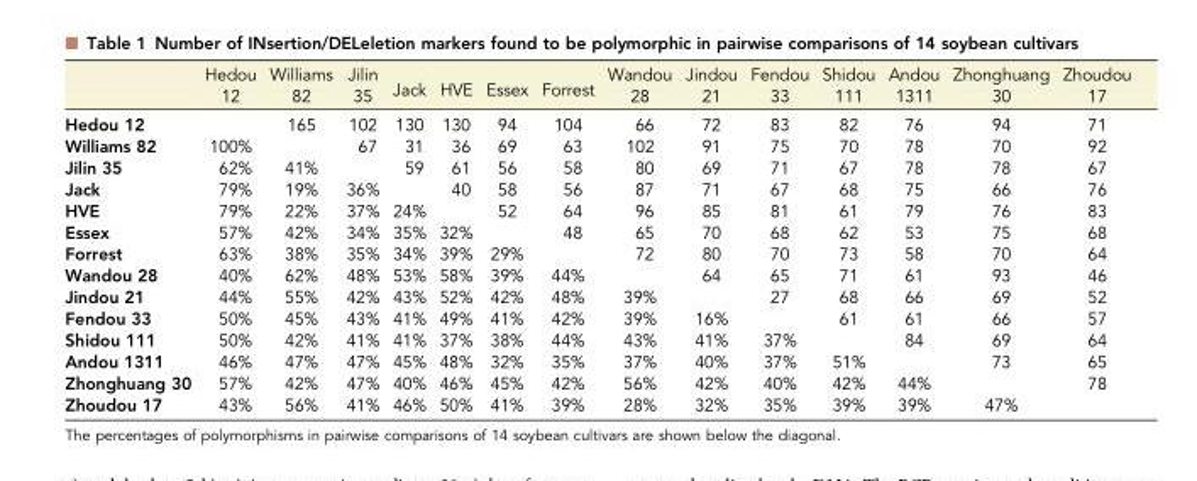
<table><thead><tr><td></td><td>Hedou 12</td><td>Williams 82</td><td>Jilin 35</td><td>Jack</td><td>HVE</td><td>Essex</td><td>Forrest</td><td>Wandou 28</td><td>Jindou 21</td><td>Fendou 33</td><td>Shidou 111</td><td>Andou 1311</td><td>Zhonghuang 30</td><td>Zhoudou 17</td></tr></thead><tbody><tr><td>Hedou 12</td><td></td><td>165</td><td>102</td><td>130</td><td>130</td><td>94</td><td>104</td><td>66</td><td>72</td><td>83</td><td>82</td><td>76</td><td>94</td><td>71</td></tr><tr><td>Williams 82</td><td>100%</td><td></td><td>67</td><td>31</td><td>36</td><td>69</td><td>63</td><td>102</td><td>91</td><td>75</td><td>70</td><td>78</td><td>70</td><td>92</td></tr><tr><td>Jilin 35</td><td>62%</td><td>41%</td><td></td><td>59</td><td>61</td><td>56</td><td>58</td><td>80</td><td>69</td><td>71</td><td>67</td><td>78</td><td>78</td><td>67</td></tr><tr><td>Jack</td><td>79%</td><td>19%</td><td>36%</td><td></td><td>40</td><td>58</td><td>56</td><td>87</td><td>71</td><td>67</td><td>68</td><td>75</td><td>66</td><td>76</td></tr><tr><td>HVE</td><td>79%</td><td>22%</td><td>37%</td><td>24%</td><td></td><td>52</td><td>64</td><td>96</td><td>85</td><td>81</td><td>61</td><td>79</td><td>76</td><td>83</td></tr><tr><td>Essex</td><td>57%</td><td>42%</td><td>34%</td><td>35%</td><td>32%</td><td></td><td>48</td><td>65</td><td>70</td><td>68</td><td>62</td><td>53</td><td>75</td><td>68</td></tr><tr><td>Forrest</td><td>63%</td><td>38%</td><td>35%</td><td>34%</td><td>39%</td><td>29%</td><td></td><td>72</td><td>80</td><td>70</td><td>73</td><td>58</td><td>70</td><td>64</td></tr><tr><td>Wandou 28</td><td>40%</td><td>62%</td><td>48%</td><td>53%</td><td>58%</td><td>39%</td><td>44%</td><td></td><td>64</td><td>65</td><td>71</td><td>61</td><td>93</td><td>46</td></tr><tr><td>Jindou 21</td><td>44%</td><td>55%</td><td>42%</td><td>43%</td><td>52%</td><td>42%</td><td>48%</td><td>39%</td><td></td><td>27</td><td>68</td><td>66</td><td>69</td><td>52</td></tr><tr><td>Fendou 33</td><td>50%</td><td>45%</td><td>43%</td><td>41%</td><td>49%</td><td>41%</td><td>42%</td><td>39%</td><td>16%</td><td></td><td>61</td><td>61</td><td>66</td><td>57</td></tr><tr><td>Shidou 111</td><td>50%</td><td>42%</td><td>41%</td><td>41%</td><td>37%</td><td>38%</td><td>44%</td><td>43%</td><td>41%</td><td>37%</td><td></td><td>84</td><td>69</td><td>64</td></tr><tr><td>Andou 1311</td><td>46%</td><td>47%</td><td>47%</td><td>45%</td><td>48%</td><td>32%</td><td>35%</td><td>37%</td><td>40%</td><td>37%</td><td>51%</td><td></td><td>73</td><td>65</td></tr><tr><td>Zhonghuang 30</td><td>57%</td><td>42%</td><td>47%</td><td>40%</td><td>46%</td><td>45%</td><td>42%</td><td>56%</td><td>42%</td><td>40%</td><td>42%</td><td>44%</td><td></td><td>78</td></tr><tr><td>Zhoudou 17</td><td>43%</td><td>56%</td><td>41%</td><td>46%</td><td>50%</td><td>41%</td><td>39%</td><td>28%</td><td>32%</td><td>35%</td><td>39%</td><td>39%</td><td>47%</td><td></td></tr></tbody></table>